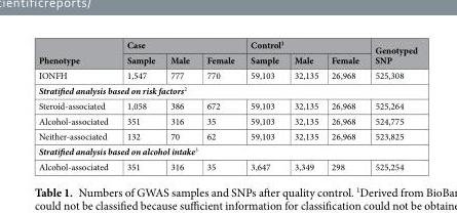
<table><thead><tr><td rowspan="2">Phenotype</td><td colspan="3">Case</td><td colspan="3">Control<sup>1</sup></td><td rowspan="2">Genotyped SNP</td></tr><tr><td>Sample</td><td>Male</td><td>Female</td><td>Sample</td><td>Male</td><td>Female</td></tr></thead><tbody><tr><td>IONFH</td><td>1,547</td><td>777</td><td>770</td><td>59,103</td><td>32,135</td><td>26,968</td><td>525,308</td></tr><tr><td colspan="8">Stratified analysis based on risk factors<sup>2</sup></td></tr><tr><td>Steroid-associated</td><td>1,058</td><td>386</td><td>672</td><td>59,103</td><td>32,135</td><td>26,968</td><td>525,264</td></tr><tr><td>Alcohol-associated</td><td>351</td><td>316</td><td>35</td><td>59,103</td><td>32,135</td><td>26,968</td><td>524,775</td></tr><tr><td>Neither-associated</td><td>132</td><td>70</td><td>62</td><td>59,103</td><td>32,135</td><td>26,968</td><td>523,825</td></tr><tr><td colspan="8">Stratified analysis based on alcohol intake<sup>3</sup></td></tr><tr><td>Alcohol-associated</td><td>351</td><td>316</td><td>35</td><td>3,647</td><td>3,349</td><td>298</td><td>525,254</td></tr></tbody></table>